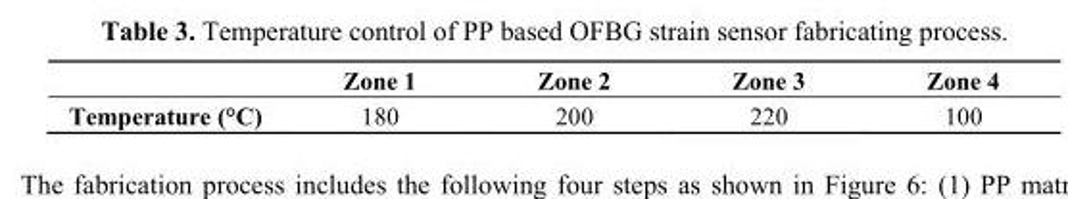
<table><thead><tr><td></td><td>Zone 1</td><td>Zone 2</td><td>Zone 3</td><td>Zone 4</td></tr></thead><tbody><tr><td>Temperature (°C)</td><td>180</td><td>200</td><td>220</td><td>100</td></tr></tbody></table>